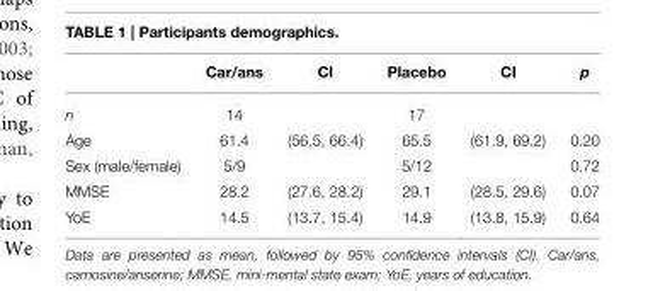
<table><thead><tr><td></td><td>Car/ans</td><td>CI</td><td>Placebo</td><td>CI</td><td>p</td></tr></thead><tbody><tr><td>n</td><td>14</td><td></td><td>17</td><td></td><td></td></tr><tr><td>Age</td><td>61.4</td><td>(56.5, 66.4)</td><td>65.5</td><td>(61.9, 69.2)</td><td>0.20</td></tr><tr><td>Sex (male/female)</td><td>5/9</td><td></td><td>5/12</td><td></td><td>0.72</td></tr><tr><td>MMSE</td><td>28.2</td><td>(27.6, 28.2)</td><td>29.1</td><td>(28.5, 29.6)</td><td>0.07</td></tr><tr><td>YoE</td><td>14.5</td><td>(13.7, 15.4)</td><td>14.9</td><td>(13.8, 15.9)</td><td>0.64</td></tr></tbody></table>